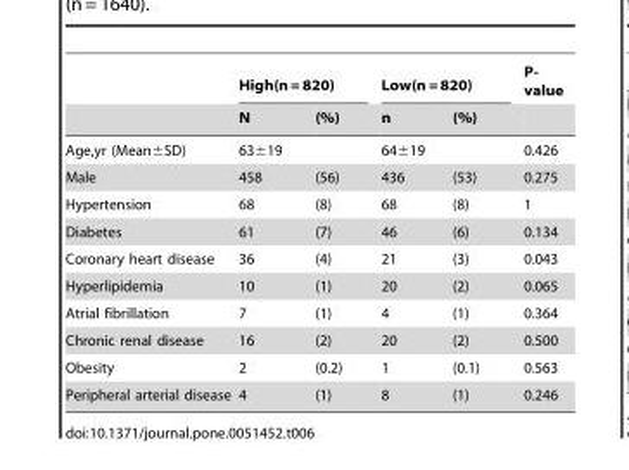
<table><thead><tr><td rowspan="2"></td><td colspan="2">High(n = 820)</td><td colspan="2">Low(n = 820)</td><td rowspan="2">P- value</td></tr><tr><td>N</td><td>(%)</td><td>n</td><td>(%)</td></tr></thead><tbody><tr><td>Age,yr (Mean±SD)</td><td colspan="2">63±19</td><td colspan="2">64±19</td><td>0.426</td></tr><tr><td>Male</td><td>458</td><td>(56)</td><td>436</td><td>(53)</td><td>0.275</td></tr><tr><td>Hypertension</td><td>68</td><td>(8)</td><td>68</td><td>(8)</td><td>1</td></tr><tr><td>Diabetes</td><td>61</td><td>(7)</td><td>46</td><td>(6)</td><td>0.134</td></tr><tr><td>Coronary heart disease</td><td>36</td><td>(4)</td><td>21</td><td>(3)</td><td>0.043</td></tr><tr><td>Hyperlipidemia</td><td>10</td><td>(1)</td><td>20</td><td>(2)</td><td>0.065</td></tr><tr><td>Atrial fibrillation</td><td>7</td><td>(1)</td><td>4</td><td>(1)</td><td>0.364</td></tr><tr><td>Chronic renal disease</td><td>16</td><td>(2)</td><td>20</td><td>(2)</td><td>0.500</td></tr><tr><td>Obesity</td><td>2</td><td>(0.2)</td><td>1</td><td>(0.1)</td><td>0.563</td></tr><tr><td>Peripheral arterial disease</td><td>4</td><td>(1)</td><td>8</td><td>(1)</td><td>0.246</td></tr></tbody></table>